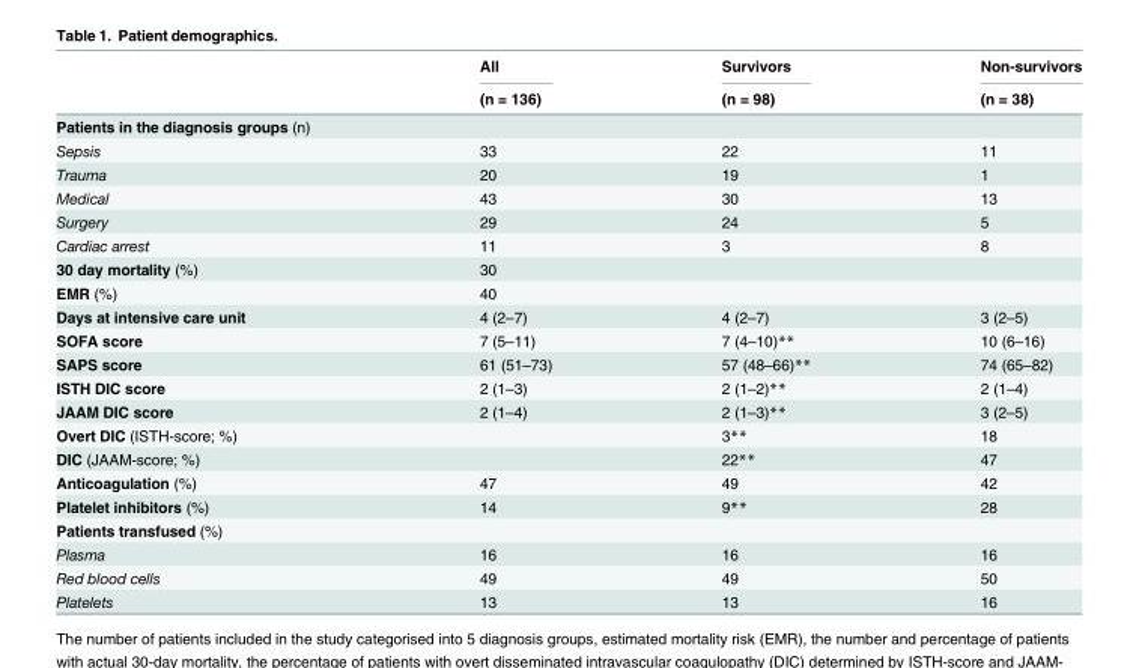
<table><thead><tr><td rowspan="2"></td><td rowspan="2">All (n = 136)</td><td rowspan="2">Survivors (n = 98)</td><td rowspan="2">Non-survivors (n = 38)</td></tr><tr></tr></thead><tbody><tr><td colspan="4">Patients in the diagnosis groups (n)</td></tr><tr><td>Sepsis</td><td>33</td><td>22</td><td>11</td></tr><tr><td>Trauma</td><td>20</td><td>19</td><td>1</td></tr><tr><td>Medical</td><td>43</td><td>30</td><td>13</td></tr><tr><td>Surgery</td><td>29</td><td>24</td><td>5</td></tr><tr><td>Cardiac arrest</td><td>11</td><td>3</td><td>8</td></tr><tr><td>30 day mortality (%)</td><td>30</td><td></td><td></td></tr><tr><td>EMR (%)</td><td>40</td><td></td><td></td></tr><tr><td>Days at intensive care unit</td><td>4 (2–7)</td><td>4 (2–7)</td><td>3 (2–5)</td></tr><tr><td>SOFA score</td><td>7 (5–11)</td><td>7 (4–10)**</td><td>10 (6–16)</td></tr><tr><td>SAPS score</td><td>61 (51–73)</td><td>57 (48–66)**</td><td>74 (65–82)</td></tr><tr><td>ISTH DIC score</td><td>2 (1–3)</td><td>2 (1–2)**</td><td>2 (1–4)</td></tr><tr><td>JAAM DIC score</td><td>2 (1–4)</td><td>2 (1–3)**</td><td>3 (2–5)</td></tr><tr><td>Overt DIC (ISTH-score; %)</td><td></td><td>3**</td><td>18</td></tr><tr><td>DIC (JAAM-score; %)</td><td></td><td>22**</td><td>47</td></tr><tr><td>Anticoagulation (%)</td><td>47</td><td>49</td><td>42</td></tr><tr><td>Platelet inhibitors (%)</td><td>14</td><td>9**</td><td>28</td></tr><tr><td colspan="4">Patients transfused (%)</td></tr><tr><td>Plasma</td><td>16</td><td>16</td><td>16</td></tr><tr><td>Red blood cells</td><td>49</td><td>49</td><td>50</td></tr><tr><td>Platelets</td><td>13</td><td>13</td><td>16</td></tr></tbody></table>